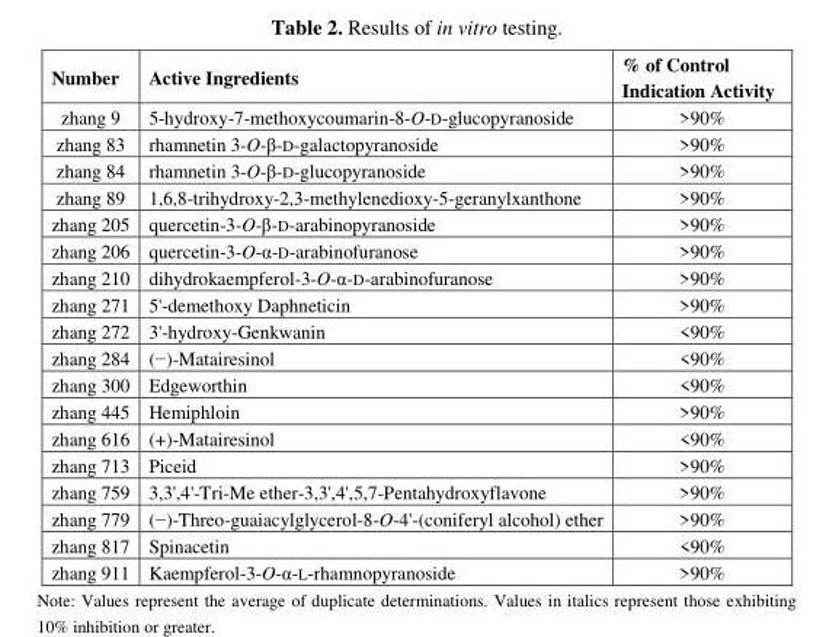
<table><thead><tr><td>Number</td><td>Active Ingredients</td><td>% of Control Indication Activity</td></tr></thead><tbody><tr><td>zhang 9</td><td>5-hydroxy-7-methoxycoumarin-8-O-D-glucopyranoside</td><td>&gt;90%</td></tr><tr><td>zhang 83</td><td>rhamnetin 3-O-β-D-galactopyranoside</td><td>&gt;90%</td></tr><tr><td>zhang 84</td><td>rhamnetin 3-O-β-D-glucopyranoside</td><td>&gt;90%</td></tr><tr><td>zhang 89</td><td>1,6,8-trihydroxy-2,3-methylenedioxy-5-geranylxanthone</td><td>&gt;90%</td></tr><tr><td>zhang 205</td><td>quercetin-3-O-β-D-arabinopyranoside</td><td>&gt;90%</td></tr><tr><td>zhang 206</td><td>quercetin-3-O-α-D-arabinofuranose</td><td>&gt;90%</td></tr><tr><td>zhang 210</td><td>dihydrokaempferol-3-O-α-D-arabinofuranose</td><td>&gt;90%</td></tr><tr><td>zhang 271</td><td>5&#x27;-demethoxy Daphneticin</td><td>&gt;90%</td></tr><tr><td>zhang 272</td><td>3&#x27;-hydroxy-Genkwanin</td><td>&lt;90%</td></tr><tr><td>zhang 284</td><td>(−)-Matairesinol</td><td>&lt;90%</td></tr><tr><td>zhang 300</td><td>Edgeworthin</td><td>&lt;90%</td></tr><tr><td>zhang 445</td><td>Hemiphloin</td><td>&gt;90%</td></tr><tr><td>zhang 616</td><td>(+)-Matairesinol</td><td>&lt;90%</td></tr><tr><td>zhang 713</td><td>Piceid</td><td>&gt;90%</td></tr><tr><td>zhang 759</td><td>3,3&#x27;,4&#x27;-Tri-Me ether-3,3&#x27;,4&#x27;,5,7-Pentahydroxyflavone</td><td>&gt;90%</td></tr><tr><td>zhang 779</td><td>(−)-Threo-guaiacylglycerol-8-O-4&#x27;-(coniferyl alcohol) ether</td><td>&gt;90%</td></tr><tr><td>zhang 817</td><td>Spinacetin</td><td>&lt;90%</td></tr><tr><td>zhang 911</td><td>Kaempferol-3-O-α-L-rhamnopyranoside</td><td>&gt;90%</td></tr></tbody></table>